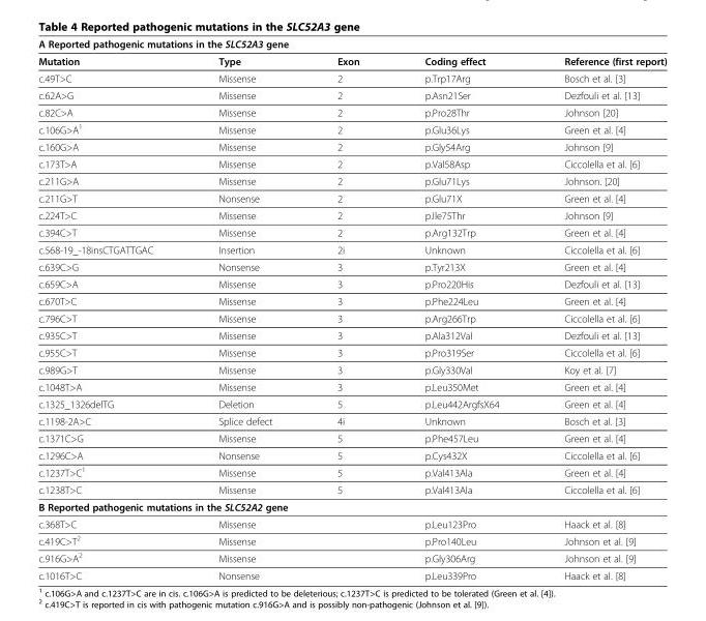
<table><thead><tr><td colspan="5">A Reported pathogenic mutations in the SLC52A3 gene</td></tr><tr><td>Mutation</td><td>Type</td><td>Exon</td><td>Coding effect</td><td>Reference (first report)</td></tr></thead><tbody><tr><td>c.49T&gt;C</td><td>Missense</td><td>2</td><td>p.Trp17Arg</td><td>Bosch et al. [3]</td></tr><tr><td>c.62A&gt;G</td><td>Missense</td><td>2</td><td>p.Asn21Ser</td><td>Dezfouli et al. [13]</td></tr><tr><td>c.82C&gt;A</td><td>Missense</td><td>2</td><td>p.Pro28Thr</td><td>Johnson [20]</td></tr><tr><td>c.106G&gt;A<sup>1</sup></td><td>Missense</td><td>2</td><td>p.Glu36Lys</td><td>Green et al. [4]</td></tr><tr><td>c.160G&gt;A</td><td>Missense</td><td>2</td><td>p.Gly54Arg</td><td>Johnson [9]</td></tr><tr><td>c.173T&gt;A</td><td>Missense</td><td>2</td><td>p.Val58Asp</td><td>Ciccolella et al. [6]</td></tr><tr><td>c.211G&gt;A</td><td>Missense</td><td>2</td><td>p.Glu71Lys</td><td>Johnson. [20]</td></tr><tr><td>c.211G&gt;T</td><td>Nonsense</td><td>2</td><td>p.Glu71X</td><td>Green et al. [4]</td></tr><tr><td>c.224T&gt;C</td><td>Missense</td><td>2</td><td>p.Ile75Thr</td><td>Johnson [9]</td></tr><tr><td>c.394C&gt;T</td><td>Missense</td><td>2</td><td>p.Arg132Trp</td><td>Green et al. [4]</td></tr><tr><td>c.568-19_-18insCTGATTGAC</td><td>Insertion</td><td>2i</td><td>Unknown</td><td>Ciccolella et al. [6]</td></tr><tr><td>c.639C&gt;G</td><td>Nonsense</td><td>3</td><td>p.Tyr213X</td><td>Green et al. [4]</td></tr><tr><td>c.659C&gt;A</td><td>Missense</td><td>3</td><td>p.Pro220His</td><td>Dezfouli et al. [13]</td></tr><tr><td>c.670T&gt;C</td><td>Missense</td><td>3</td><td>p.Phe224Leu</td><td>Green et al. [4]</td></tr><tr><td>c.796C&gt;T</td><td>Missense</td><td>3</td><td>p.Arg266Trp</td><td>Ciccolella et al. [6]</td></tr><tr><td>c.935C&gt;T</td><td>Missense</td><td>3</td><td>p.Ala312Val</td><td>Dezfouli et al. [13]</td></tr><tr><td>c.955C&gt;T</td><td>Missense</td><td>3</td><td>p.Pro319Ser</td><td>Ciccolella et al. [6]</td></tr><tr><td>c.989G&gt;T</td><td>Missense</td><td>3</td><td>p.Gly330Val</td><td>Koy et al. [7]</td></tr><tr><td>c.1048T&gt;A</td><td>Missense</td><td>3</td><td>p.Leu350Met</td><td>Green et al. [4]</td></tr><tr><td>c.1325_1326delTG</td><td>Deletion</td><td>5</td><td>p.Leu442ArgfsX64</td><td>Green et al. [4]</td></tr><tr><td>c.1198-2A&gt;C</td><td>Splice defect</td><td>4i</td><td>Unknown</td><td>Bosch et al. [3]</td></tr><tr><td>c.1371C&gt;G</td><td>Missense</td><td>5</td><td>p.Phe457Leu</td><td>Green et al. [4]</td></tr><tr><td>c.1296C&gt;A</td><td>Nonsense</td><td>5</td><td>p.Cys432X</td><td>Ciccolella et al. [6]</td></tr><tr><td>c.1237T&gt;C<sup>1</sup></td><td>Missense</td><td>5</td><td>p.Val413Ala</td><td>Green et al. [4]</td></tr><tr><td>c.1238T&gt;C</td><td>Missense</td><td>5</td><td>p.Val413Ala</td><td>Ciccolella et al. [6]</td></tr><tr><td colspan="5">B Reported pathogenic mutations in the SLC52A2 gene</td></tr><tr><td>c.368T&gt;C</td><td>Missense</td><td></td><td>p.Leu123Pro</td><td>Haack et al. [8]</td></tr><tr><td>c.419C&gt;T<sup>2</sup></td><td>Missense</td><td></td><td>p.Pro140Leu</td><td>Johnson et al. [9]</td></tr><tr><td>c.916G&gt;A<sup>2</sup></td><td>Missense</td><td></td><td>p.Gly306Arg</td><td>Johnson et al. [9]</td></tr><tr><td>c.1016T&gt;C</td><td>Nonsense</td><td></td><td>p.Leu339Pro</td><td>Haack et al. [8]</td></tr></tbody></table>